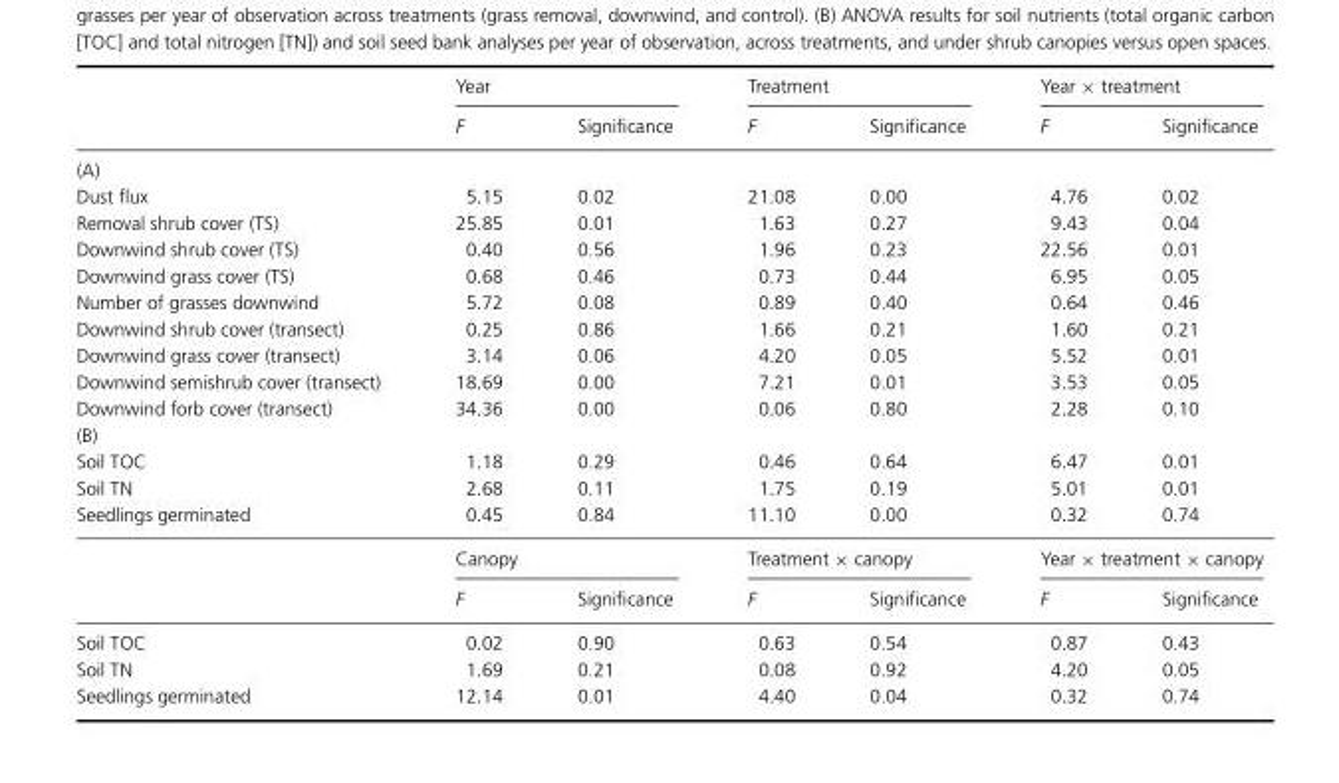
<table><thead><tr><td rowspan="2"></td><td colspan="2">Year</td><td colspan="2">Treatment</td><td colspan="2">Year × treatment</td></tr><tr><td>F</td><td>Significance</td><td>F</td><td>Significance</td><td>F</td><td>Significance</td></tr></thead><tbody><tr><td colspan="7">(A)</td></tr><tr><td>Dust flux</td><td>5.15</td><td>0.02</td><td>21.08</td><td>0.00</td><td>4.76</td><td>0.02</td></tr><tr><td>Removal shrub cover (TS)</td><td>25.85</td><td>0.01</td><td>1.63</td><td>0.27</td><td>9.43</td><td>0.04</td></tr><tr><td>Downwind shrub cover (TS)</td><td>0.40</td><td>0.56</td><td>1.96</td><td>0.23</td><td>22.56</td><td>0.01</td></tr><tr><td>Downwind grass cover (TS)</td><td>0.68</td><td>0.46</td><td>0.73</td><td>0.44</td><td>6.95</td><td>0.05</td></tr><tr><td>Number of grasses downwind</td><td>5.72</td><td>0.08</td><td>0.89</td><td>0.40</td><td>0.64</td><td>0.46</td></tr><tr><td>Downwind shrub cover (transect)</td><td>0.25</td><td>0.86</td><td>1.66</td><td>0.21</td><td>1.60</td><td>0.21</td></tr><tr><td>Downwind grass cover (transect)</td><td>3.14</td><td>0.06</td><td>4.20</td><td>0.05</td><td>5.52</td><td>0.01</td></tr><tr><td>Downwind semishrub cover (transect)</td><td>18.69</td><td>0.00</td><td>7.21</td><td>0.01</td><td>3.53</td><td>0.05</td></tr><tr><td>Downwind forb cover (transect)</td><td>34.36</td><td>0.00</td><td>0.06</td><td>0.80</td><td>2.28</td><td>0.10</td></tr><tr><td colspan="7">(B)</td></tr><tr><td>Soil TOC</td><td>1.18</td><td>0.29</td><td>0.46</td><td>0.64</td><td>6.47</td><td>0.01</td></tr><tr><td>Soil TN</td><td>2.68</td><td>0.11</td><td>1.75</td><td>0.19</td><td>5.01</td><td>0.01</td></tr><tr><td rowspan="3">Seedlings germinated</td><td>0.45</td><td>0.84</td><td>11.10</td><td>0.00</td><td>0.32</td><td>0.74</td></tr><tr><td colspan="2">Canopy</td><td colspan="2">Treatment × canopy</td><td colspan="2">Year × treatment × canopy</td></tr><tr><td>F</td><td>Significance</td><td>F</td><td>Significance</td><td>F</td><td>Significance</td></tr><tr><td>Soil TOC</td><td>0.02</td><td>0.90</td><td>0.63</td><td>0.54</td><td>0.87</td><td>0.43</td></tr><tr><td>Soil TN</td><td>1.69</td><td>0.21</td><td>0.08</td><td>0.92</td><td>4.20</td><td>0.05</td></tr><tr><td>Seedlings germinated</td><td>12.14</td><td>0.01</td><td>4.40</td><td>0.04</td><td>0.32</td><td>0.74</td></tr></tbody></table>